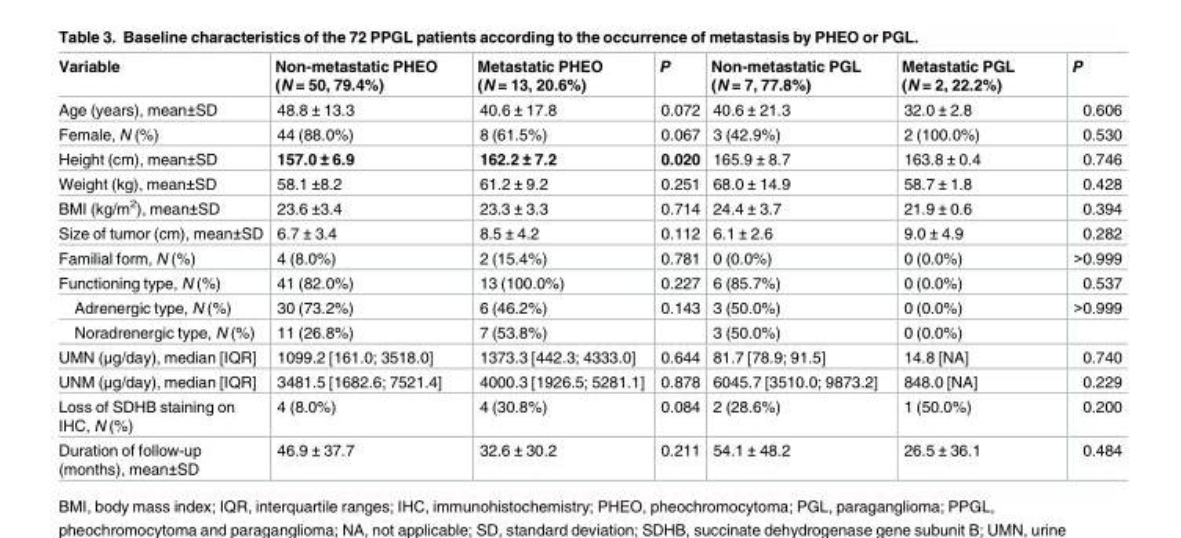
<table><thead><tr><td>Variable</td><td>Non-metastatic PHEO (N = 50, 79.4%)</td><td>Metastatic PHEO (N = 13, 20.6%)</td><td>P</td><td>Non-metastatic PGL (N = 7, 77.8%)</td><td>Metastatic PGL (N = 2, 22.2%)</td><td>P</td></tr></thead><tbody><tr><td>Age (years), mean±SD</td><td>48.8 ± 13.3</td><td>40.6 ± 17.8</td><td>0.072</td><td>40.6 ± 21.3</td><td>32.0 ± 2.8</td><td>0.606</td></tr><tr><td>Female, N (%)</td><td>44 (88.0%)</td><td>8 (61.5%)</td><td>0.067</td><td>3 (42.9%)</td><td>2 (100.0%)</td><td>0.530</td></tr><tr><td>Height (cm), mean±SD</td><td>157.0 ± 6.9</td><td>162.2 ± 7.2</td><td>0.020</td><td>165.9 ± 8.7</td><td>163.8 ± 0.4</td><td>0.746</td></tr><tr><td>Weight (kg), mean±SD</td><td>58.1 ±8.2</td><td>61.2 ± 9.2</td><td>0.251</td><td>68.0 ± 14.9</td><td>58.7 ± 1.8</td><td>0.428</td></tr><tr><td>BMI (kg/m<sup>2</sup>), mean±SD</td><td>23.6 ±3.4</td><td>23.3 ± 3.3</td><td>0.714</td><td>24.4 ± 3.7</td><td>21.9 ± 0.6</td><td>0.394</td></tr><tr><td>Size of tumor (cm), mean±SD</td><td>6.7 ± 3.4</td><td>8.5 ± 4.2</td><td>0.112</td><td>6.1 ± 2.6</td><td>9.0 ± 4.9</td><td>0.282</td></tr><tr><td>Familial form, N (%)</td><td>4 (8.0%)</td><td>2 (15.4%)</td><td>0.781</td><td>0 (0.0%)</td><td>0 (0.0%)</td><td>&gt;0.999</td></tr><tr><td>Functioning type, N (%)</td><td>41 (82.0%)</td><td>13 (100.0%)</td><td>0.227</td><td>6 (85.7%)</td><td>0 (0.0%)</td><td>0.537</td></tr><tr><td>Adrenergic type, N (%)</td><td>30 (73.2%)</td><td>6 (46.2%)</td><td>0.143</td><td>3 (50.0%)</td><td>0 (0.0%)</td><td>&gt;0.999</td></tr><tr><td>Noradrenergic type, N (%)</td><td>11 (26.8%)</td><td>7 (53.8%)</td><td></td><td>3 (50.0%)</td><td>0 (0.0%)</td><td></td></tr><tr><td>UMN (μg/day), median [IQR]</td><td>1099.2 [161.0; 3518.0]</td><td>1373.3 [442.3; 4333.0]</td><td>0.644</td><td>81.7 [78.9; 91.5]</td><td>14.8 [NA]</td><td>0.740</td></tr><tr><td>UNM (μg/day), median [IQR]</td><td>3481.5 [1682.6; 7521.4]</td><td>4000.3 [1926.5; 5281.1]</td><td>0.878</td><td>6045.7 [3510.0; 9873.2]</td><td>848.0 [NA]</td><td>0.229</td></tr><tr><td>Loss of SDHB staining on IHC, N (%)</td><td>4 (8.0%)</td><td>4 (30.8%)</td><td>0.084</td><td>2 (28.6%)</td><td>1 (50.0%)</td><td>0.200</td></tr><tr><td>Duration of follow-up (months), mean±SD</td><td>46.9 ± 37.7</td><td>32.6 ± 30.2</td><td>0.211</td><td>54.1 ± 48.2</td><td>26.5 ± 36.1</td><td>0.484</td></tr></tbody></table>